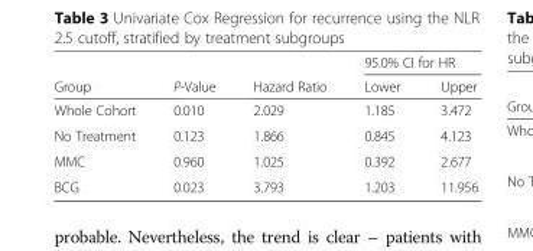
<table><thead><tr><td rowspan="2">Group</td><td rowspan="2">P-Value</td><td rowspan="2">Hazard Ratio</td><td colspan="2">95.0% CI for HR</td></tr><tr><td>Lower</td><td>Upper</td></tr></thead><tbody><tr><td>Whole Cohort</td><td>0.010</td><td>2.029</td><td>1.185</td><td>3.472</td></tr><tr><td>No Treatment</td><td>0.123</td><td>1.866</td><td>0.845</td><td>4.123</td></tr><tr><td>MMC</td><td>0.960</td><td>1.025</td><td>0.392</td><td>2.677</td></tr><tr><td>BCG</td><td>0.023</td><td>3.793</td><td>1.203</td><td>11.956</td></tr></tbody></table>